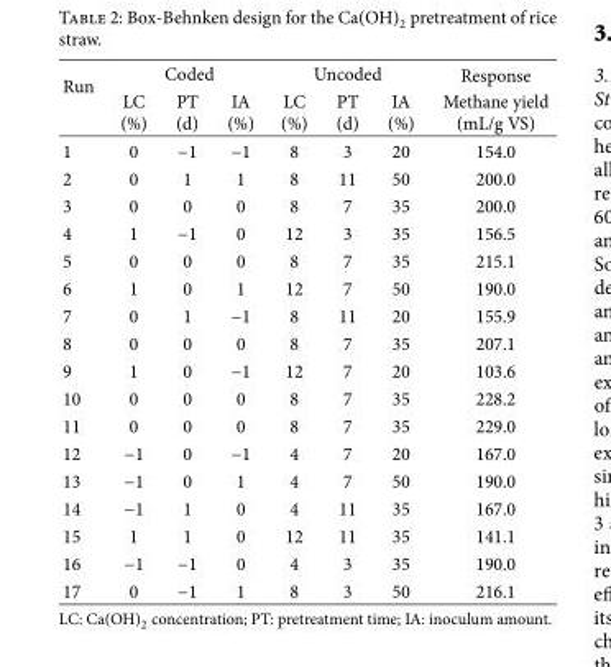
<table><thead><tr><td rowspan="2">Run</td><td colspan="3">Coded</td><td colspan="3">Uncoded</td><td rowspan="2">Response Methane yield (mL/g VS)</td></tr><tr><td>LC (%)</td><td>PT (d)</td><td>IA (%)</td><td>LC (%)</td><td>PT (d)</td><td>IA (%)</td></tr></thead><tbody><tr><td>1</td><td>0</td><td>−1</td><td>−1</td><td>8</td><td>3</td><td>20</td><td>154.0</td></tr><tr><td>2</td><td>0</td><td>1</td><td>1</td><td>8</td><td>11</td><td>50</td><td>200.0</td></tr><tr><td>3</td><td>0</td><td>0</td><td>0</td><td>8</td><td>7</td><td>35</td><td>200.0</td></tr><tr><td>4</td><td>1</td><td>−1</td><td>0</td><td>12</td><td>3</td><td>35</td><td>156.5</td></tr><tr><td>5</td><td>0</td><td>0</td><td>0</td><td>8</td><td>7</td><td>35</td><td>215.1</td></tr><tr><td>6</td><td>1</td><td>0</td><td>1</td><td>12</td><td>7</td><td>50</td><td>190.0</td></tr><tr><td>7</td><td>0</td><td>1</td><td>−1</td><td>8</td><td>11</td><td>20</td><td>155.9</td></tr><tr><td>8</td><td>0</td><td>0</td><td>0</td><td>8</td><td>7</td><td>35</td><td>207.1</td></tr><tr><td>9</td><td>1</td><td>0</td><td>−1</td><td>12</td><td>7</td><td>20</td><td>103.6</td></tr><tr><td>10</td><td>0</td><td>0</td><td>0</td><td>8</td><td>7</td><td>35</td><td>228.2</td></tr><tr><td>11</td><td>0</td><td>0</td><td>0</td><td>8</td><td>7</td><td>35</td><td>229.0</td></tr><tr><td>12</td><td>−1</td><td>0</td><td>−1</td><td>4</td><td>7</td><td>20</td><td>167.0</td></tr><tr><td>13</td><td>−1</td><td>0</td><td>1</td><td>4</td><td>7</td><td>50</td><td>190.0</td></tr><tr><td>14</td><td>−1</td><td>1</td><td>0</td><td>4</td><td>11</td><td>35</td><td>167.0</td></tr><tr><td>15</td><td>1</td><td>1</td><td>0</td><td>12</td><td>11</td><td>35</td><td>141.1</td></tr><tr><td>16</td><td>−1</td><td>−1</td><td>0</td><td>4</td><td>3</td><td>35</td><td>190.0</td></tr><tr><td>17</td><td>0</td><td>−1</td><td>1</td><td>8</td><td>3</td><td>50</td><td>216.1</td></tr></tbody></table>